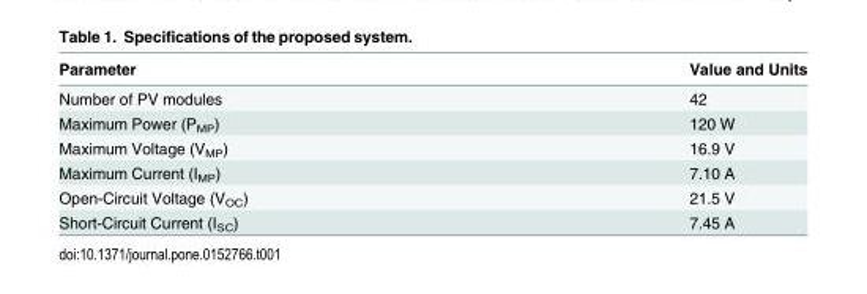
<table><thead><tr><td>Parameter</td><td>Value and Units</td></tr></thead><tbody><tr><td>Number of PV modules</td><td>42</td></tr><tr><td>Maximum Power (P<sub>MP</sub>)</td><td>120 W</td></tr><tr><td>Maximum Voltage (V<sub>MP</sub>)</td><td>16.9 V</td></tr><tr><td>Maximum Current (I<sub>MP</sub>)</td><td>7.10 A</td></tr><tr><td>Open-Circuit Voltage (V<sub>OC</sub>)</td><td>21.5 V</td></tr><tr><td>Short-Circuit Current (I<sub>SC</sub>)</td><td>7.45 A</td></tr></tbody></table>